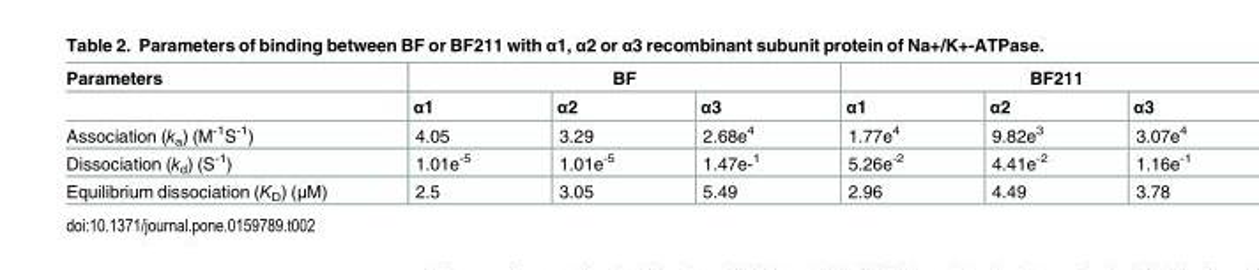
<table><thead><tr><td rowspan="2">Parameters</td><td colspan="3">BF</td><td colspan="3">BF211</td></tr><tr><td>α1</td><td>α2</td><td>α3</td><td>α1</td><td>α2</td><td>α3</td></tr></thead><tbody><tr><td>Association (k<sub>a</sub>) (M<sup>-1</sup>S<sup>-1</sup>)</td><td>4.05</td><td>3.29</td><td>2.68e<sup>4</sup></td><td>1.77e<sup>4</sup></td><td>9.82e<sup>3</sup></td><td>3.07e<sup>4</sup></td></tr><tr><td>Dissociation (k<sub>d</sub>) (S<sup>-1</sup>)</td><td>1.01e<sup>-5</sup></td><td>1.01e<sup>-5</sup></td><td>1.47e-<sup>1</sup></td><td>5.26e<sup>-2</sup></td><td>4.41e<sup>-2</sup></td><td>1.16e<sup>-1</sup></td></tr><tr><td>Equilibrium dissociation (K<sub>D</sub>) (μM)</td><td>2.5</td><td>3.05</td><td>5.49</td><td>2.96</td><td>4.49</td><td>3.78</td></tr></tbody></table>